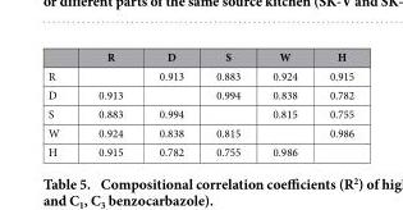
<table><thead><tr><td></td><td>R</td><td>D</td><td>S</td><td>W</td><td>H</td></tr></thead><tbody><tr><td>R</td><td></td><td>0.913</td><td>0.883</td><td>0.924</td><td>0.915</td></tr><tr><td>D</td><td>0.913</td><td></td><td>0.994</td><td>0.838</td><td>0.782</td></tr><tr><td>S</td><td>0.883</td><td>0.994</td><td></td><td>0.815</td><td>0.755</td></tr><tr><td>W</td><td>0.924</td><td>0.838</td><td>0.815</td><td></td><td>0.986</td></tr><tr><td>H</td><td>0.915</td><td>0.782</td><td>0.755</td><td>0.986</td><td></td></tr></tbody></table>